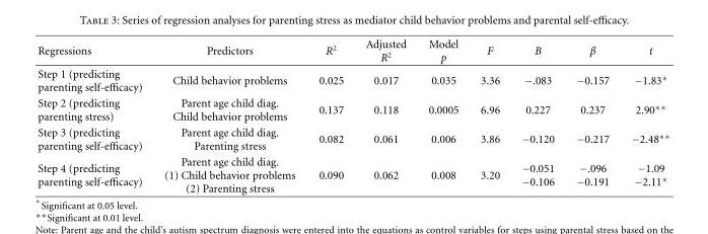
<table><thead><tr><td>Regressions</td><td>Predictors</td><td>R<sup>2</sup></td><td>Adjusted R<sup>2</sup></td><td>Model p</td><td>F</td><td>B</td><td>β</td><td>t</td></tr></thead><tbody><tr><td>Step 1 (predicting parenting self-efficacy)</td><td>Child behavior problems</td><td>0.025</td><td>0.017</td><td>0.035</td><td>3.36</td><td>−.083</td><td>−0.157</td><td>−1.83∗</td></tr><tr><td>Step 2 (predicting parenting stress)</td><td>Parent age child diag. Child behavior problems</td><td>0.137</td><td>0.118</td><td>0.0005</td><td>6.96</td><td>0.227</td><td>0.237</td><td>2.90∗∗</td></tr><tr><td>Step 3 (predicting parenting self-efficacy)</td><td>Parent age child diag. Parenting stress</td><td>0.082</td><td>0.061</td><td>0.006</td><td>3.86</td><td>−0.120</td><td>−0.217</td><td>−2.48∗∗</td></tr><tr><td>Step 4 (predicting parenting self-efficacy)</td><td>Parent age child diag. (1) Child behavior problems (2) Parenting stress</td><td>0.090</td><td>0.062</td><td>0.008</td><td>3.20</td><td>−0.051 −0.106</td><td>−.096 −0.191</td><td>−1.09 −2.11∗</td></tr></tbody></table>